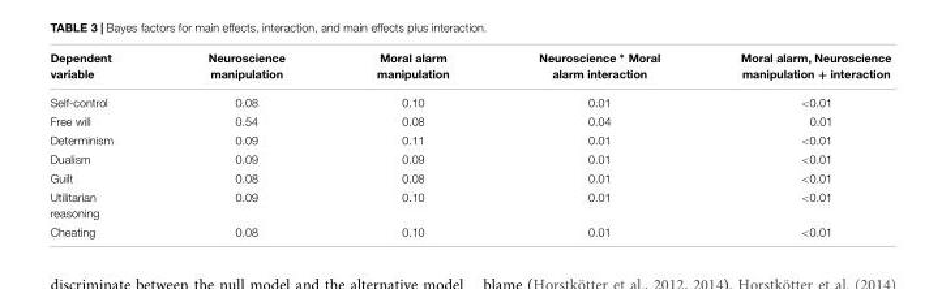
<table><thead><tr><td>Dependent variable</td><td>Neuroscience manipulation</td><td>Moral alarm manipulation</td><td>Neuroscience ∗ Moral alarm interaction</td><td>Moral alarm, Neuroscience manipulation + interaction</td></tr></thead><tbody><tr><td>Self-control</td><td>0.08</td><td>0.10</td><td>0.01</td><td>&lt;0.01</td></tr><tr><td>Free will</td><td>0.54</td><td>0.08</td><td>0.04</td><td>0.01</td></tr><tr><td>Determinism</td><td>0.09</td><td>0.11</td><td>0.01</td><td>&lt;0.01</td></tr><tr><td>Dualism</td><td>0.09</td><td>0.09</td><td>0.01</td><td>&lt;0.01</td></tr><tr><td>Guilt</td><td>0.08</td><td>0.08</td><td>0.01</td><td>&lt;0.01</td></tr><tr><td>Utilitarian reasoning</td><td>0.09</td><td>0.10</td><td>0.01</td><td>&lt;0.01</td></tr><tr><td>Cheating</td><td>0.08</td><td>0.10</td><td>0.01</td><td>&lt;0.01</td></tr></tbody></table>